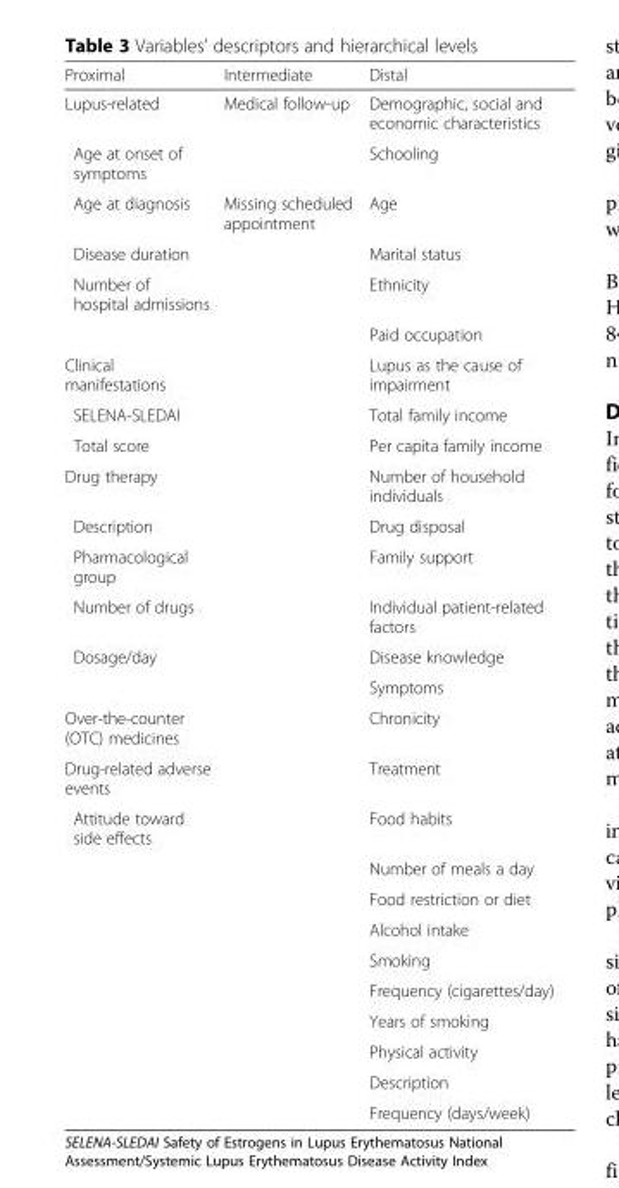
<table><thead><tr><td>Proximal</td><td>Intermediate</td><td>Distal</td></tr></thead><tbody><tr><td>Lupus-related</td><td>Medical follow-up</td><td>Demographic, social and economic characteristics</td></tr><tr><td>Age at onset of symptoms</td><td></td><td>Schooling</td></tr><tr><td>Age at diagnosis</td><td>Missing scheduled appointment</td><td>Age</td></tr><tr><td>Disease duration</td><td></td><td>Marital status</td></tr><tr><td rowspan="2">Number of hospital admissions</td><td></td><td>Ethnicity</td></tr><tr><td></td><td>Paid occupation</td></tr><tr><td>Clinical manifestations</td><td></td><td>Lupus as the cause of impairment</td></tr><tr><td>SELENA-SLEDAI</td><td></td><td>Total family income</td></tr><tr><td>Total score</td><td></td><td>Per capita family income</td></tr><tr><td>Drug therapy</td><td></td><td>Number of household individuals</td></tr><tr><td>Description</td><td></td><td>Drug disposal</td></tr><tr><td>Pharmacological group</td><td></td><td>Family support</td></tr><tr><td>Number of drugs</td><td></td><td>Individual patient-related factors</td></tr><tr><td rowspan="2">Dosage/day</td><td></td><td>Disease knowledge</td></tr><tr><td></td><td>Symptoms</td></tr><tr><td>Over-the-counter (OTC) medicines</td><td></td><td>Chronicity</td></tr><tr><td>Drug-related adverse events</td><td></td><td>Treatment</td></tr><tr><td rowspan="10">Attitude toward side effects</td><td></td><td>Food habits</td></tr><tr><td></td><td>Number of meals a day</td></tr><tr><td></td><td>Food restriction or diet</td></tr><tr><td></td><td>Alcohol intake</td></tr><tr><td></td><td>Smoking</td></tr><tr><td></td><td>Frequency (cigarettes/day)</td></tr><tr><td></td><td>Years of smoking</td></tr><tr><td></td><td>Physical activity</td></tr><tr><td></td><td>Description</td></tr><tr><td></td><td>Frequency (days/week)</td></tr></tbody></table>